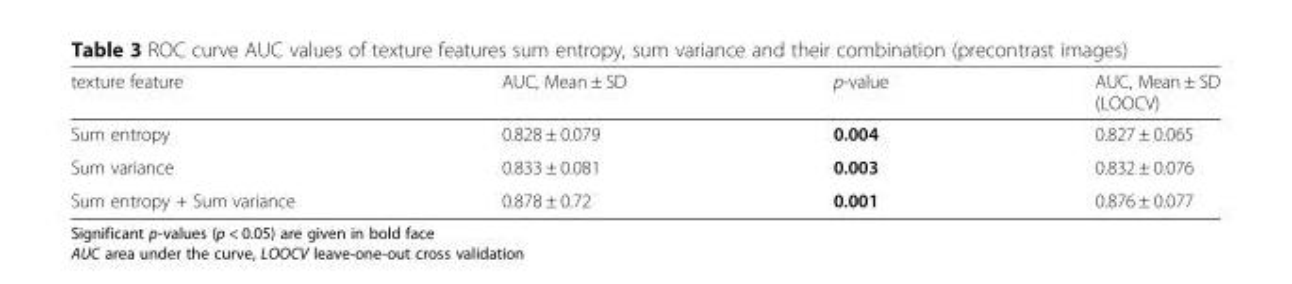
<table><thead><tr><td>texture feature</td><td>AUC, Mean ± SD</td><td>p-value</td><td>AUC, Mean ± SD (LOOCV)</td></tr></thead><tbody><tr><td>Sum entropy</td><td>0.828 ± 0.079</td><td>0.004</td><td>0.827 ± 0.065</td></tr><tr><td>Sum variance</td><td>0.833 ± 0.081</td><td>0.003</td><td>0.832 ± 0.076</td></tr><tr><td>Sum entropy + Sum variance</td><td>0.878 ± 0.72</td><td>0.001</td><td>0.876 ± 0.077</td></tr></tbody></table>